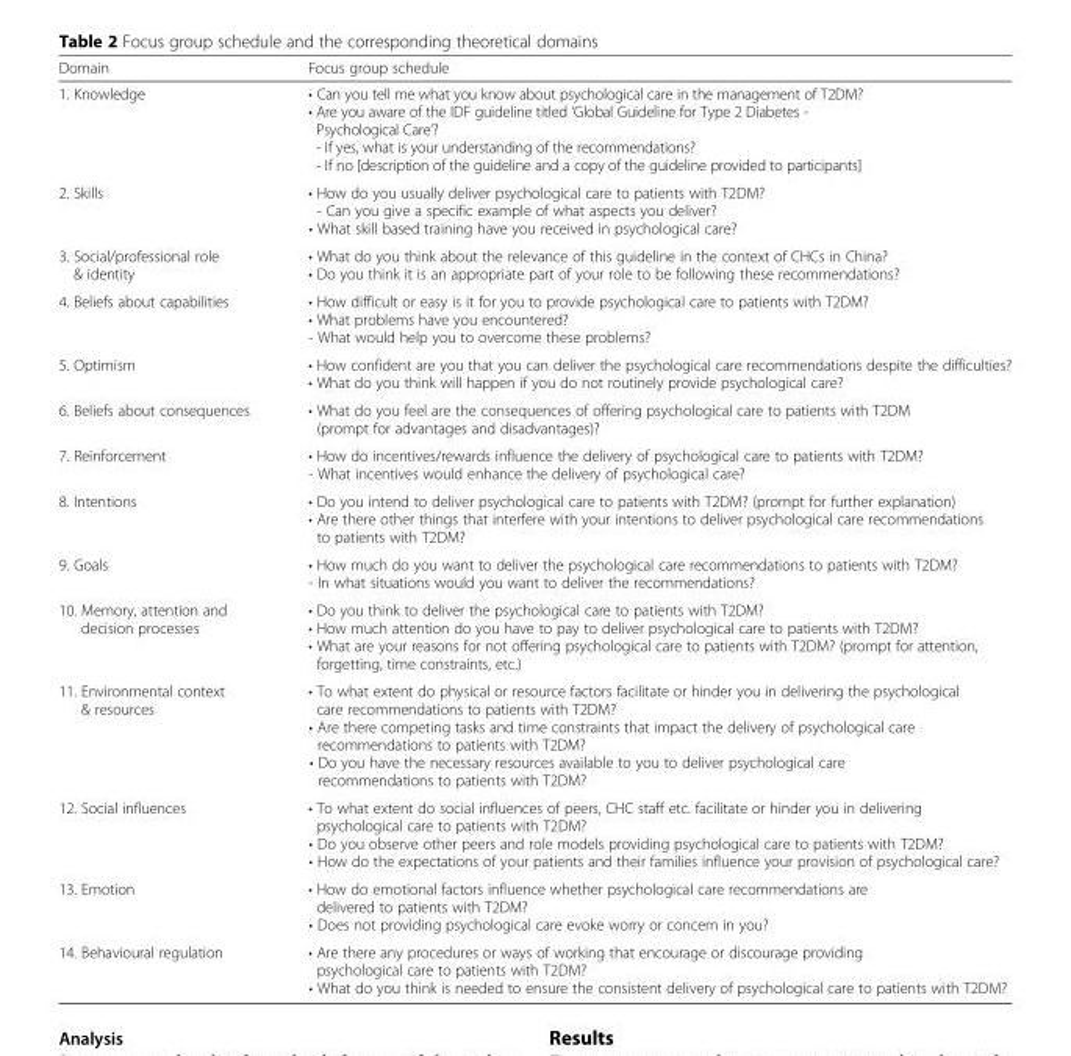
<table><thead><tr><td>Domain</td><td>Focus group schedule</td></tr></thead><tbody><tr><td>1. Knowledge</td><td>• Can you tell me what you know about psychological care in the management of T2DM? • Are you aware of the IDF guideline titled ‘Global Guideline for Type 2 Diabetes - Psychological Care’? - If yes, what is your understanding of the recommendations? - If no [description of the guideline and a copy of the guideline provided to participants]</td></tr><tr><td>2. Skills</td><td>• How do you usually deliver psychological care to patients with T2DM? - Can you give a specific example of what aspects you deliver? • What skill based training have you received in psychological care?</td></tr><tr><td>3. Social/professional role &amp; identity</td><td>• What do you think about the relevance of this guideline in the context of CHCs in China? • Do you think it is an appropriate part of your role to be following these recommendations?</td></tr><tr><td>4. Beliefs about capabilities</td><td>• How difficult or easy is it for you to provide psychological care to patients with T2DM? • What problems have you encountered? - What would help you to overcome these problems?</td></tr><tr><td>5. Optimism</td><td>• How confident are you that you can deliver the psychological care recommendations despite the difficulties? • What do you think will happen if you do not routinely provide psychological care?</td></tr><tr><td>6. Beliefs about consequences</td><td>• What do you feel are the consequences of offering psychological care to patients with T2DM (prompt for advantages and disadvantages)?</td></tr><tr><td>7. Reinforcement</td><td>• How do incentives/rewards influence the delivery of psychological care to patients with T2DM? - What incentives would enhance the delivery of psychological care?</td></tr><tr><td>8. Intentions</td><td>• Do you intend to deliver psychological care to patients with T2DM? (prompt for further explanation) • Are there other things that interfere with your intentions to deliver psychological care recommendations to patients with T2DM?</td></tr><tr><td>9. Goals</td><td>• How much do you want to deliver the psychological care recommendations to patients with T2DM? - In what situations would you want to deliver the recommendations?</td></tr><tr><td>10. Memory, attention and decision processes</td><td>• Do you think to deliver the psychological care to patients with T2DM? • How much attention do you have to pay to deliver psychological care to patients with T2DM? • What are your reasons for not offering psychological care to patients with T2DM? (prompt for attention, forgetting, time constraints, etc.)</td></tr><tr><td>11. Environmental context &amp; resources</td><td>• To what extent do physical or resource factors facilitate or hinder you in delivering the psychological care recommendations to patients with T2DM? • Are there competing tasks and time constraints that impact the delivery of psychological care recommendations to patients with T2DM? • Do you have the necessary resources available to you to deliver psychological care recommendations to patients with T2DM?</td></tr><tr><td>12. Social influences</td><td>• To what extent do social influences of peers, CHC staff etc. facilitate or hinder you in delivering psychological care to patients with T2DM? • Do you observe other peers and role models providing psychological care to patients with T2DM? • How do the expectations of your patients and their families influence your provision of psychological care?</td></tr><tr><td>13. Emotion</td><td>• How do emotional factors influence whether psychological care recommendations are delivered to patients with T2DM? • Does not providing psychological care evoke worry or concern in you?</td></tr><tr><td>14. Behavioural regulation</td><td>• Are there any procedures or ways of working that encourage or discourage providing psychological care to patients with T2DM? • What do you think is needed to ensure the consistent delivery of psychological care to patients with T2DM?</td></tr></tbody></table>